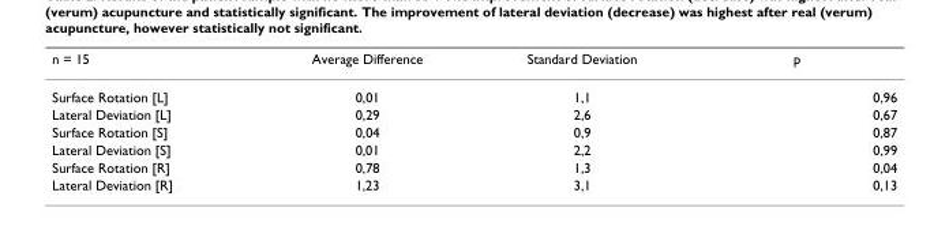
<table><thead><tr><td>n = 15</td><td>Average Difference</td><td>Standard Deviation</td><td>p</td></tr></thead><tbody><tr><td>Surface Rotation [L]</td><td>0,01</td><td>1,1</td><td>0,96</td></tr><tr><td>Lateral Deviation [L]</td><td>0,29</td><td>2,6</td><td>0,67</td></tr><tr><td>Surface Rotation [S]</td><td>0,04</td><td>0,9</td><td>0,87</td></tr><tr><td>Lateral Deviation [S]</td><td>0,01</td><td>2,2</td><td>0,99</td></tr><tr><td>Surface Rotation [R]</td><td>0,78</td><td>1,3</td><td>0,04</td></tr><tr><td>Lateral Deviation [R]</td><td>1,23</td><td>3,1</td><td>0,13</td></tr></tbody></table>